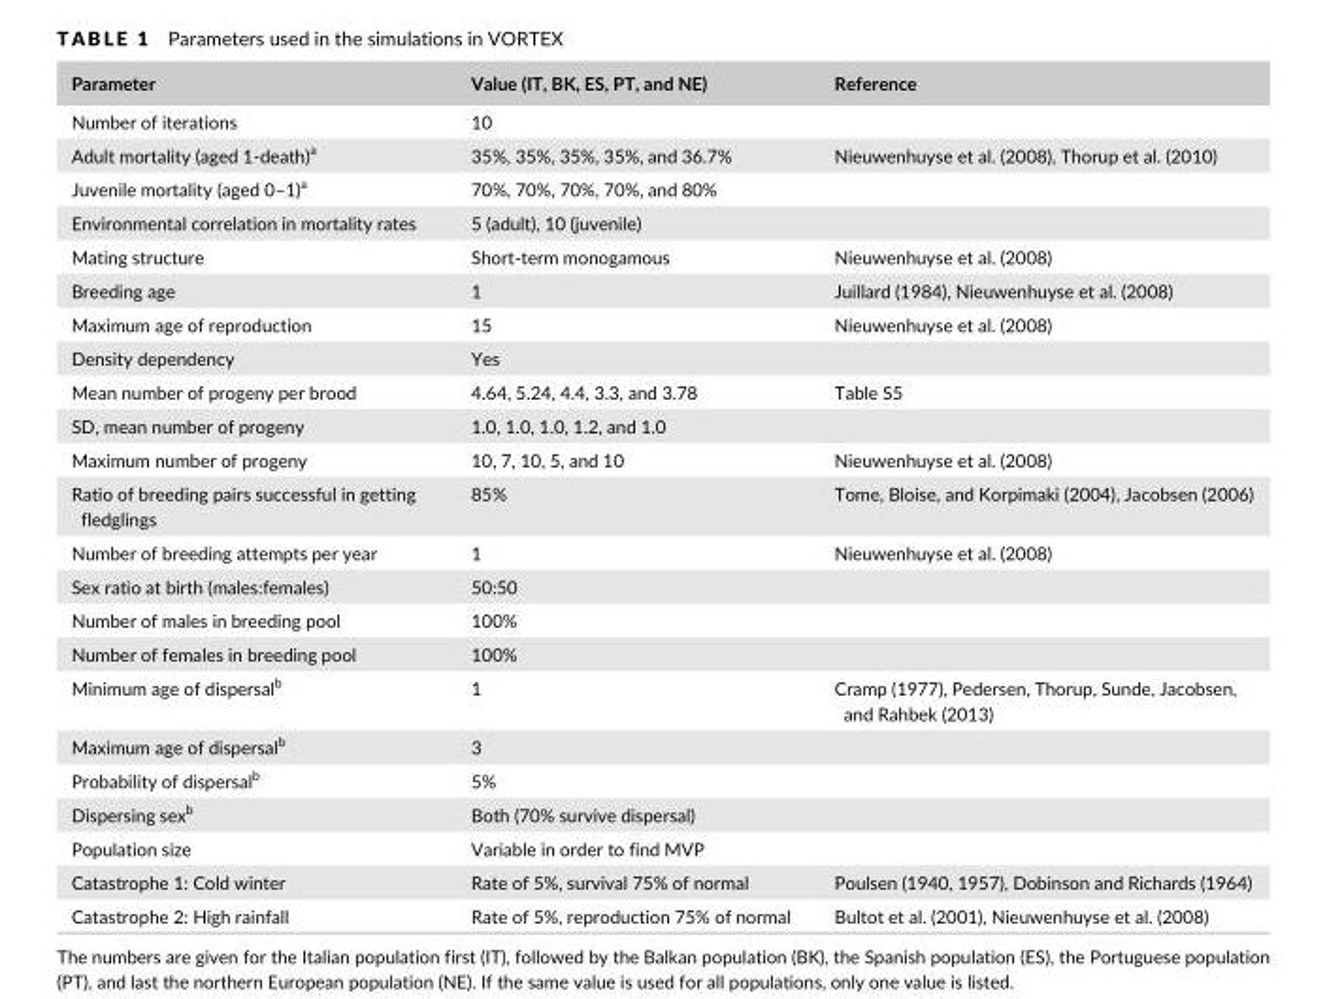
<table><thead><tr><td>Parameter</td><td>Value (IT, BK, ES, PT, and NE)</td><td>Reference</td></tr></thead><tbody><tr><td>Number of iterations</td><td>10</td><td></td></tr><tr><td>Adult mortality (aged 1- death)<sup>a</sup></td><td>35%, 35%, 35%, 35%, and 36.7%</td><td>Nieuwenhuyse et al. (2008), Thorup et al. (2010)</td></tr><tr><td>Juvenile mortality (aged 0–1)<sup>a</sup></td><td>70%, 70%, 70%, 70%, and 80%</td><td></td></tr><tr><td>Environmental correlation in mortality rates</td><td>5 (adult), 10 (juvenile)</td><td></td></tr><tr><td>Mating structure</td><td>Short- term monogamous</td><td>Nieuwenhuyse et al. (2008)</td></tr><tr><td>Breeding age</td><td>1</td><td>Juillard (1984), Nieuwenhuyse et al. (2008)</td></tr><tr><td>Maximum age of reproduction</td><td>15</td><td>Nieuwenhuyse et al. (2008)</td></tr><tr><td>Density dependency</td><td>Yes</td><td></td></tr><tr><td>Mean number of progeny per brood</td><td>4.64, 5.24, 4.4, 3.3, and 3.78</td><td>Table S5</td></tr><tr><td>SD, mean number of progeny</td><td>1.0, 1.0, 1.0, 1.2, and 1.0</td><td></td></tr><tr><td>Maximum number of progeny</td><td>10, 7, 10, 5, and 10</td><td>Nieuwenhuyse et al. (2008)</td></tr><tr><td>Ratio of breeding pairs successful in getting fledglings</td><td>85%</td><td>Tome, Bloise, and Korpimaki (2004), Jacobsen (2006)</td></tr><tr><td>Number of breeding attempts per year</td><td>1</td><td>Nieuwenhuyse et al. (2008)</td></tr><tr><td>Sex ratio at birth (males:females)</td><td>50:50</td><td></td></tr><tr><td>Number of males in breeding pool</td><td>100%</td><td></td></tr><tr><td>Number of females in breeding pool</td><td>100%</td><td></td></tr><tr><td>Minimum age of dispersal<sup>b</sup></td><td>1</td><td>Cramp (1977), Pedersen, Thorup, Sunde, Jacobsen, and Rahbek (2013)</td></tr><tr><td>Maximum age of dispersal<sup>b</sup></td><td>3</td><td></td></tr><tr><td>Probability of dispersal<sup>b</sup></td><td>5%</td><td></td></tr><tr><td>Dispersing sex<sup>b</sup></td><td>Both (70% survive dispersal)</td><td></td></tr><tr><td>Population size</td><td>Variable in order to find MVP</td><td></td></tr><tr><td>Catastrophe 1: Cold winter</td><td>Rate of 5%, survival 75% of normal</td><td>Poulsen (1940, 1957), Dobinson and Richards (1964)</td></tr><tr><td>Catastrophe 2: High rainfall</td><td>Rate of 5%, reproduction 75% of normal</td><td>Bultot et al. (2001), Nieuwenhuyse et al. (2008)</td></tr></tbody></table>